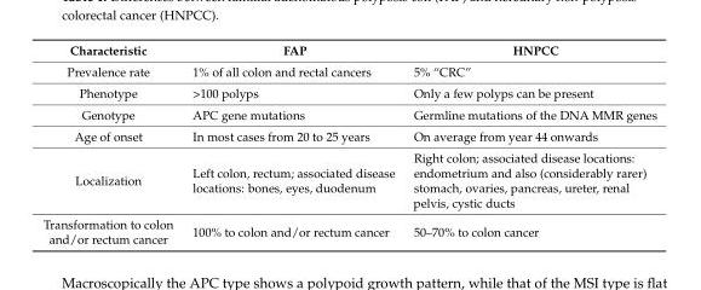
<table><thead><tr><td>Characteristic</td><td>FAP</td><td>HNPCC</td></tr></thead><tbody><tr><td>Prevalence rate</td><td>1% of all colon and rectal cancers</td><td>5% “CRC”</td></tr><tr><td>Phenotype</td><td>&gt;100 polyps</td><td>Only a few polyps can be present</td></tr><tr><td>Genotype</td><td>APC gene mutations</td><td>Germline mutations of the DNA MMR genes</td></tr><tr><td>Age of onset</td><td>In most cases from 20 to 25 years</td><td>On average from year 44 onwards</td></tr><tr><td>Localization</td><td>Left colon, rectum; associated disease locations: bones, eyes, duodenum</td><td>Right colon; associated disease locations: endometrium and also (considerably rarer) stomach, ovaries, pancreas, ureter, renal pelvis, cystic ducts</td></tr><tr><td>Transformation to colon and/or rectum cancer</td><td>100% to colon and/or rectum cancer</td><td>50–70% to colon cancer</td></tr></tbody></table>